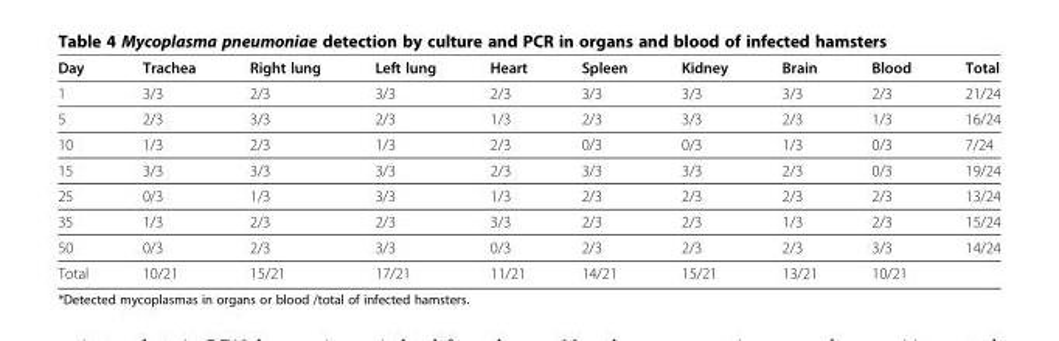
<table><thead><tr><td>Day</td><td>Trachea</td><td>Right lung</td><td>Left lung</td><td>Heart</td><td>Spleen</td><td>Kidney</td><td>Brain</td><td>Blood</td><td>Total</td></tr></thead><tbody><tr><td>1</td><td>3/3</td><td>2/3</td><td>3/3</td><td>2/3</td><td>3/3</td><td>3/3</td><td>3/3</td><td>2/3</td><td>21/24</td></tr><tr><td>5</td><td>2/3</td><td>3/3</td><td>2/3</td><td>1/3</td><td>2/3</td><td>3/3</td><td>2/3</td><td>1/3</td><td>16/24</td></tr><tr><td>10</td><td>1/3</td><td>2/3</td><td>1/3</td><td>2/3</td><td>0/3</td><td>0/3</td><td>1/3</td><td>0/3</td><td>7/24</td></tr><tr><td>15</td><td>3/3</td><td>3/3</td><td>3/3</td><td>2/3</td><td>3/3</td><td>3/3</td><td>2/3</td><td>0/3</td><td>19/24</td></tr><tr><td>25</td><td>0/3</td><td>1/3</td><td>3/3</td><td>1/3</td><td>2/3</td><td>2/3</td><td>2/3</td><td>2/3</td><td>13/24</td></tr><tr><td>35</td><td>1/3</td><td>2/3</td><td>2/3</td><td>3/3</td><td>2/3</td><td>2/3</td><td>1/3</td><td>2/3</td><td>15/24</td></tr><tr><td>50</td><td>0/3</td><td>2/3</td><td>3/3</td><td>0/3</td><td>2/3</td><td>2/3</td><td>2/3</td><td>3/3</td><td>14/24</td></tr><tr><td>Total</td><td>10/21</td><td>15/21</td><td>17/21</td><td>11/21</td><td>14/21</td><td>15/21</td><td>13/21</td><td>10/21</td><td></td></tr></tbody></table>